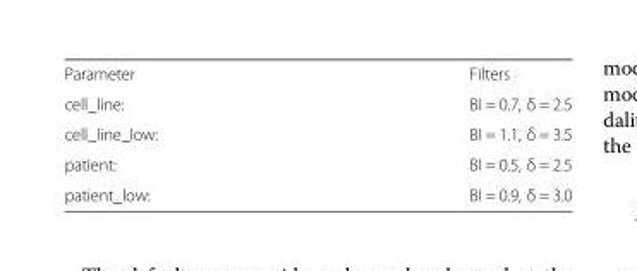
<table><tbody><tr><td>Parameter</td><td>Filters</td></tr><tr><td>cell_line:</td><td>BI = 0.7, δ = 2.5</td></tr><tr><td>cell_line_low:</td><td>BI = 1.1, δ = 3.5</td></tr><tr><td>patient:</td><td>BI = 0.5, δ = 2.5</td></tr><tr><td>patient_low:</td><td>BI = 0.9, δ = 3.0</td></tr></tbody></table>